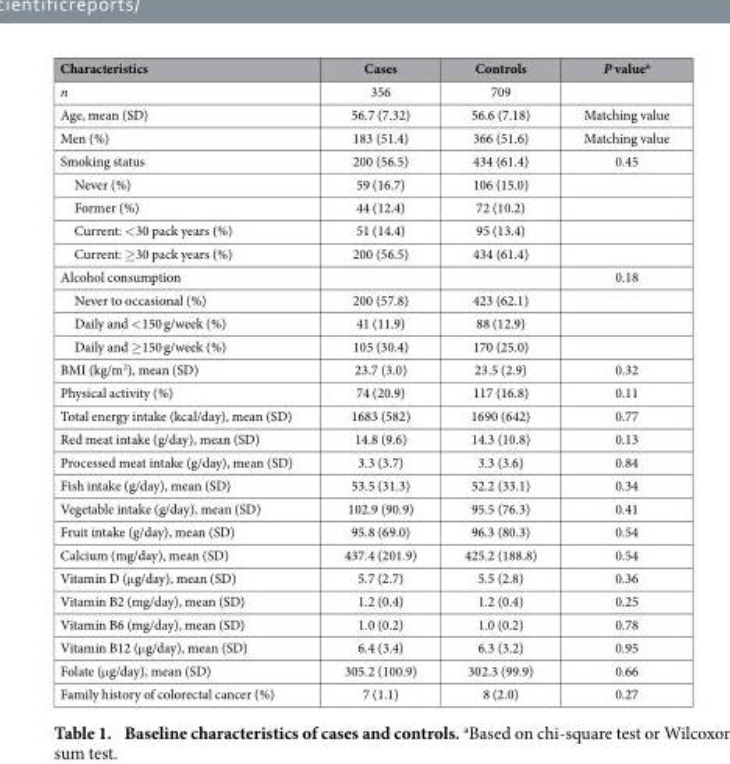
<table><thead><tr><td>Characteristics</td><td>Cases</td><td>Controls</td><td>P value<sup>a</sup></td></tr></thead><tbody><tr><td>n</td><td>356</td><td>709</td><td></td></tr><tr><td>Age, mean (SD)</td><td>56.7 (7.32)</td><td>56.6 (7.18)</td><td>Matching value</td></tr><tr><td>Men (%)</td><td>183 (51.4)</td><td>366 (51.6)</td><td>Matching value</td></tr><tr><td>Smoking status</td><td>200 (56.5)</td><td>434 (61.4)</td><td>0.45</td></tr><tr><td>Never (%)</td><td>59 (16.7)</td><td>106 (15.0)</td><td></td></tr><tr><td>Former (%)</td><td>44 (12.4)</td><td>72 (10.2)</td><td></td></tr><tr><td>Current: &lt; 30 pack years (%)</td><td>51 (14.4)</td><td>95 (13.4)</td><td></td></tr><tr><td>Current: ≥ 30 pack years (%)</td><td>200 (56.5)</td><td>434 (61.4)</td><td></td></tr><tr><td>Alcohol consumption</td><td></td><td></td><td>0.18</td></tr><tr><td>Never to occasional (%)</td><td>200 (57.8)</td><td>423 (62.1)</td><td></td></tr><tr><td>Daily and &lt; 150 g/week (%)</td><td>41 (11.9)</td><td>88 (12.9)</td><td></td></tr><tr><td>Daily and ≥ 150 g/week (%)</td><td>105 (30.4)</td><td>170 (25.0)</td><td></td></tr><tr><td>BMI (kg/m<sup>2</sup>), mean (SD)</td><td>23.7 (3.0)</td><td>23.5 (2.9)</td><td>0.32</td></tr><tr><td>Physical activity (%)</td><td>74 (20.9)</td><td>117 (16.8)</td><td>0.11</td></tr><tr><td>Total energy intake (kcal/day), mean (SD)</td><td>1683 (582)</td><td>1690 (642)</td><td>0.77</td></tr><tr><td>Red meat intake (g/day), mean (SD)</td><td>14.8 (9.6)</td><td>14.3 (10.8)</td><td>0.13</td></tr><tr><td>Processed meat intake (g/day), mean (SD)</td><td>3.3 (3.7)</td><td>3.3 (3.6)</td><td>0.84</td></tr><tr><td>Fish intake (g/day), mean (SD)</td><td>53.5 (31.3)</td><td>52.2 (33.1)</td><td>0.34</td></tr><tr><td>Vegetable intake (g/day), mean (SD)</td><td>102.9 (90.9)</td><td>95.5 (76.3)</td><td>0.41</td></tr><tr><td>Fruit intake (g/day), mean (SD)</td><td>95.8 (69.0)</td><td>96.3 (80.3)</td><td>0.54</td></tr><tr><td>Calcium (mg/day), mean (SD)</td><td>437.4 (201.9)</td><td>425.2 (188.8)</td><td>0.54</td></tr><tr><td>Vitamin D (μ g/day), mean (SD)</td><td>5.7 (2.7)</td><td>5.5 (2.8)</td><td>0.36</td></tr><tr><td>Vitamin B2 (mg/day), mean (SD)</td><td>1.2 (0.4)</td><td>1.2 (0.4)</td><td>0.25</td></tr><tr><td>Vitamin B6 (mg/day), mean (SD)</td><td>1.0 (0.2)</td><td>1.0 (0.2)</td><td>0.78</td></tr><tr><td>Vitamin B12 (μ g/day), mean (SD)</td><td>6.4 (3.4)</td><td>6.3 (3.2)</td><td>0.95</td></tr><tr><td>Folate (μ g/day), mean (SD)</td><td>305.2 (100.9)</td><td>302.3 (99.9)</td><td>0.66</td></tr><tr><td>Family history of colorectal cancer (%)</td><td>7 (1.1)</td><td>8 (2.0)</td><td>0.27</td></tr></tbody></table>